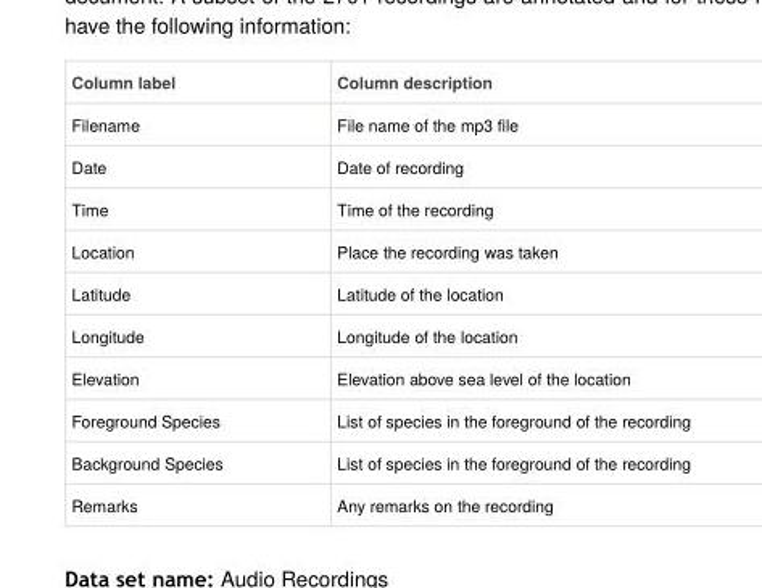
<table><thead><tr><td>Column label</td><td>Column description</td></tr></thead><tbody><tr><td>Filename</td><td>File name of the mp3 file</td></tr><tr><td>Date</td><td>Date of recording</td></tr><tr><td>Time</td><td>Time of the recording</td></tr><tr><td>Location</td><td>Place the recording was taken</td></tr><tr><td>Latitude</td><td>Latitude of the location</td></tr><tr><td>Longitude</td><td>Longitude of the location</td></tr><tr><td>Elevation</td><td>Elevation above sea level of the location</td></tr><tr><td>Foreground Species</td><td>List of species in the foreground of the recording</td></tr><tr><td>Background Species</td><td>List of species in the foreground of the recording</td></tr><tr><td>Remarks</td><td>Any remarks on the recording</td></tr></tbody></table>